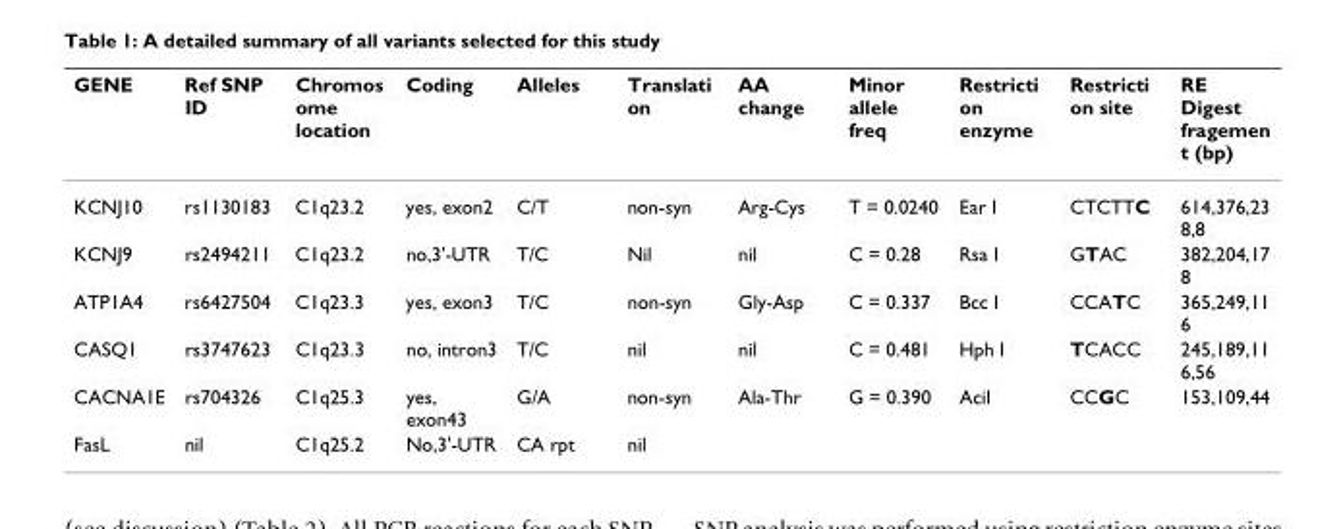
<table><thead><tr><td>GENE</td><td>Ref SNP ID</td><td>Chromos ome location</td><td>Coding</td><td>Alleles</td><td>Translati on</td><td>AA change</td><td>Minor allele freq</td><td>Restricti on enzyme</td><td>Restricti on site</td><td>RE Digest fragemen t (bp)</td></tr></thead><tbody><tr><td>KCNJ10</td><td>rs1130183</td><td>C1q23.2</td><td>yes, exon2</td><td>C/T</td><td>non-syn</td><td>Arg-Cys</td><td>T = 0.0240</td><td>Ear I</td><td>CTCTTC</td><td>614,376,23 8,8</td></tr><tr><td>KCNJ9</td><td>rs2494211</td><td>C1q23.2</td><td>no,3&#x27;-UTR</td><td>T/C</td><td>Nil</td><td>nil</td><td>C = 0.28</td><td>Rsa I</td><td>GTAC</td><td>382,204,17 8</td></tr><tr><td>ATP1A4</td><td>rs6427504</td><td>C1q23.3</td><td>yes, exon3</td><td>T/C</td><td>non-syn</td><td>Gly-Asp</td><td>C = 0.337</td><td>Bcc I</td><td>CCATC</td><td>365,249,11 6</td></tr><tr><td>CASQ1</td><td>rs3747623</td><td>C1q23.3</td><td>no, intron3</td><td>T/C</td><td>nil</td><td>nil</td><td>C = 0.481</td><td>Hph I</td><td>TCACC</td><td>245,189,11 6,56</td></tr><tr><td>CACNA1E</td><td>rs704326</td><td>C1q25.3</td><td>yes, exon43</td><td>G/A</td><td>non-syn</td><td>Ala-Thr</td><td>G = 0.390</td><td>AciI</td><td>CCGC</td><td>153,109,44</td></tr><tr><td>FasL</td><td>nil</td><td>C1q25.2</td><td>No,3&#x27;-UTR</td><td>CA rpt</td><td>nil</td><td></td><td></td><td></td><td></td><td></td></tr></tbody></table>